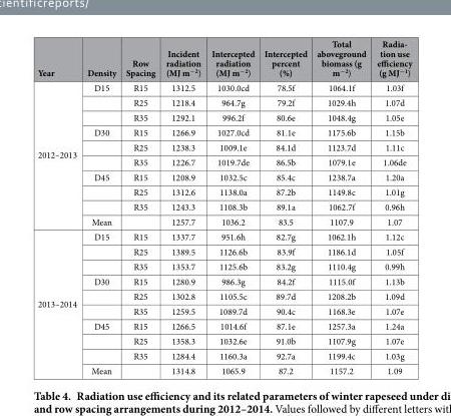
<table><thead><tr><td>Year</td><td>Density</td><td>Row Spacing</td><td>Incident radiation (MJ m<sup>−2</sup>)</td><td>Intercepted radiation (MJ m<sup>−2</sup>)</td><td>Intercepted percent (%)</td><td>Total aboveground biomass (g m<sup>−2</sup>)</td><td>Radia- tion use efficiency (g MJ−1)</td></tr></thead><tbody><tr><td rowspan="10">2012–2013</td><td>D15</td><td>R15</td><td>1312.5</td><td>1030.0cd</td><td>78.5f</td><td>1064.1f</td><td>1.03f</td></tr><tr><td></td><td>R25</td><td>1218.4</td><td>964.7g</td><td>79.2f</td><td>1029.4h</td><td>1.07d</td></tr><tr><td></td><td>R35</td><td>1292.1</td><td>996.2f</td><td>80.6e</td><td>1048.4g</td><td>1.05e</td></tr><tr><td>D30</td><td>R15</td><td>1266.9</td><td>1027.0cd</td><td>81.1e</td><td>1175.6b</td><td>1.15b</td></tr><tr><td></td><td>R25</td><td>1238.3</td><td>1009.1e</td><td>84.1d</td><td>1123.7d</td><td>1.11c</td></tr><tr><td></td><td>R35</td><td>1226.7</td><td>1019.7de</td><td>86.5b</td><td>1079.1e</td><td>1.06de</td></tr><tr><td>D45</td><td>R15</td><td>1208.9</td><td>1032.5c</td><td>85.4c</td><td>1238.7a</td><td>1.20a</td></tr><tr><td></td><td>R25</td><td>1312.6</td><td>1138.0a</td><td>87.2b</td><td>1149.8c</td><td>1.01g</td></tr><tr><td></td><td>R35</td><td>1243.3</td><td>1108.3b</td><td>89.1a</td><td>1062.7f</td><td>0.96h</td></tr><tr><td>Mean</td><td></td><td>1257.7</td><td>1036.2</td><td>83.5</td><td>1107.9</td><td>1.07</td></tr><tr><td rowspan="10">2013–2014</td><td>D15</td><td>R15</td><td>1337.7</td><td>951.6h</td><td>82.7g</td><td>1062.1h</td><td>1.12c</td></tr><tr><td></td><td>R25</td><td>1389.5</td><td>1126.6b</td><td>83.9f</td><td>1186.1d</td><td>1.05f</td></tr><tr><td></td><td>R35</td><td>1353.7</td><td>1125.6b</td><td>83.2g</td><td>1110.4g</td><td>0.99h</td></tr><tr><td>D30</td><td>R15</td><td>1280.9</td><td>986.3g</td><td>84.2f</td><td>1115.0f</td><td>1.13b</td></tr><tr><td></td><td>R25</td><td>1302.8</td><td>1105.5c</td><td>89.7d</td><td>1208.2b</td><td>1.09d</td></tr><tr><td></td><td>R35</td><td>1259.5</td><td>1089.7d</td><td>90.4c</td><td>1168.3e</td><td>1.07e</td></tr><tr><td>D45</td><td>R15</td><td>1266.5</td><td>1014.6f</td><td>87.1e</td><td>1257.3a</td><td>1.24a</td></tr><tr><td></td><td>R25</td><td>1358.3</td><td>1032.6e</td><td>91.0b</td><td>1107.9g</td><td>1.07e</td></tr><tr><td></td><td>R35</td><td>1284.4</td><td>1160.3a</td><td>92.7a</td><td>1199.4c</td><td>1.03g</td></tr><tr><td>Mean</td><td></td><td>1314.8</td><td>1065.9</td><td>87.2</td><td>1157.2</td><td>1.09</td></tr></tbody></table>